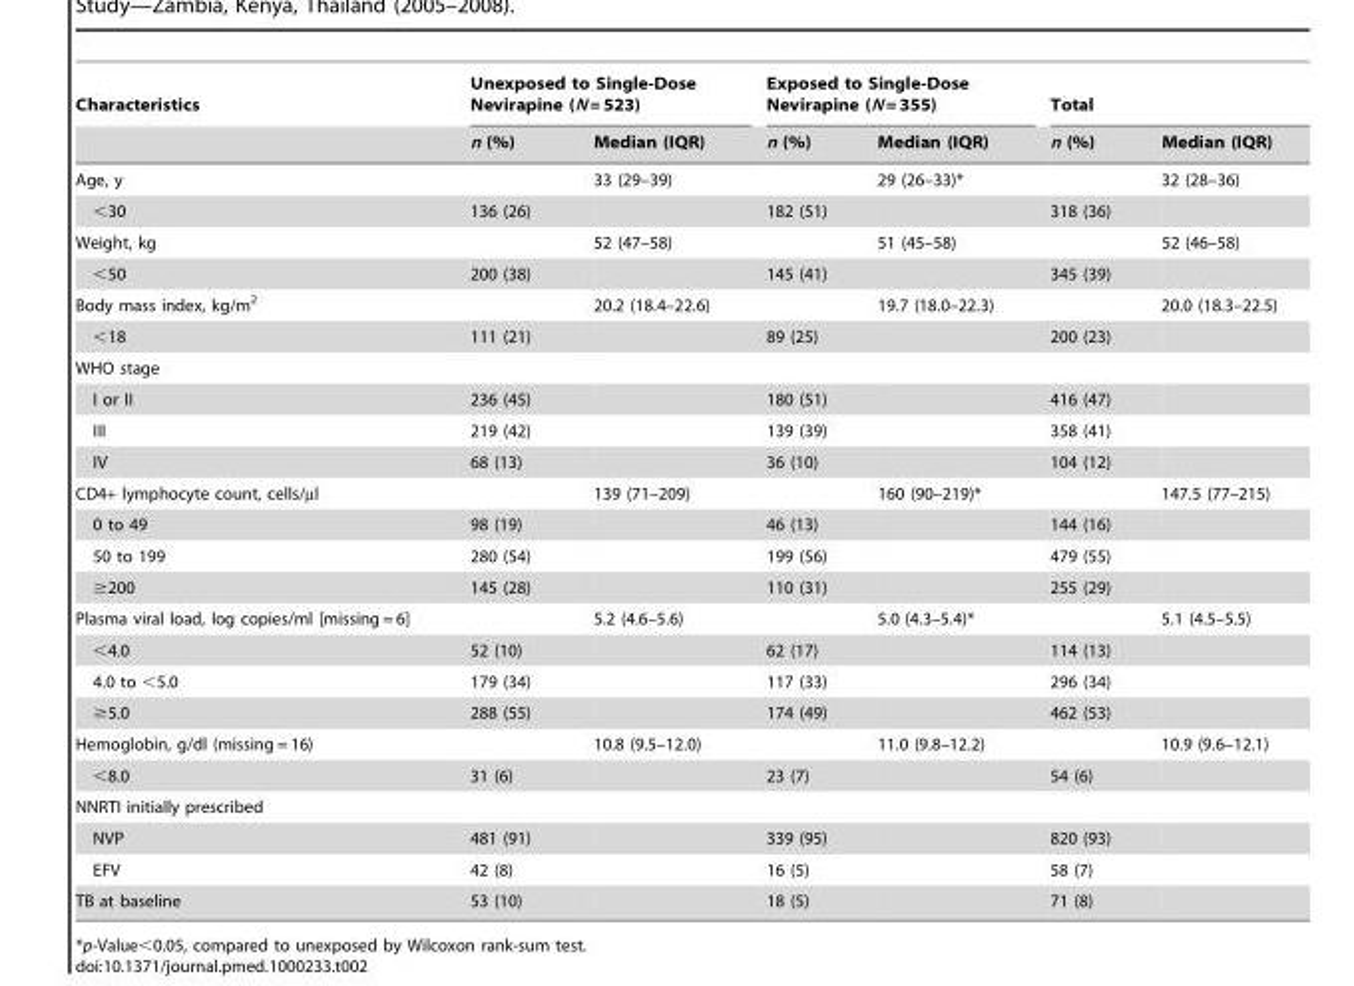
<table><thead><tr><td rowspan="2">Characteristics</td><td colspan="2">Unexposed to Single-Dose Nevirapine (N = 523)</td><td colspan="2">Exposed to Single-Dose Nevirapine (N = 355)</td><td colspan="2">Total</td></tr><tr><td>n (%)</td><td>Median (IQR)</td><td>n (%)</td><td>Median (IQR)</td><td>n (%)</td><td>Median (IQR)</td></tr></thead><tbody><tr><td>Age, y</td><td></td><td>33 (29–39)</td><td></td><td>29 (26–33)*</td><td></td><td>32 (28–36)</td></tr><tr><td>&lt;30</td><td>136 (26)</td><td></td><td>182 (51)</td><td></td><td>318 (36)</td><td></td></tr><tr><td>Weight, kg</td><td></td><td>52 (47–58)</td><td></td><td>51 (45–58)</td><td></td><td>52 (46–58)</td></tr><tr><td>&lt;50</td><td>200 (38)</td><td></td><td>145 (41)</td><td></td><td>345 (39)</td><td></td></tr><tr><td>Body mass index, kg/m<sup>2</sup></td><td></td><td>20.2 (18.4–22.6)</td><td></td><td>19.7 (18.0–22.3)</td><td></td><td>20.0 (18.3–22.5)</td></tr><tr><td>&lt;18</td><td>111 (21)</td><td></td><td>89 (25)</td><td></td><td>200 (23)</td><td></td></tr><tr><td colspan="7">WHO stage</td></tr><tr><td>I or II</td><td>236 (45)</td><td></td><td>180 (51)</td><td></td><td>416 (47)</td><td></td></tr><tr><td>III</td><td>219 (42)</td><td></td><td>139 (39)</td><td></td><td>358 (41)</td><td></td></tr><tr><td>IV</td><td>68 (13)</td><td></td><td>36 (10)</td><td></td><td>104 (12)</td><td></td></tr><tr><td>CD4+ lymphocyte count, cells/µl</td><td></td><td>139 (71–209)</td><td></td><td>160 (90–219)*</td><td></td><td>147.5 (77–215)</td></tr><tr><td>0 to 49</td><td>98 (19)</td><td></td><td>46 (13)</td><td></td><td>144 (16)</td><td></td></tr><tr><td>50 to 199</td><td>280 (54)</td><td></td><td>199 (56)</td><td></td><td>479 (55)</td><td></td></tr><tr><td>≥200</td><td>145 (28)</td><td></td><td>110 (31)</td><td></td><td>255 (29)</td><td></td></tr><tr><td>Plasma viral load, log copies/ml [missing = 6]</td><td></td><td>5.2 (4.6–5.6)</td><td></td><td>5.0 (4.3–5.4)*</td><td></td><td>5.1 (4.5–5.5)</td></tr><tr><td>&lt;4.0</td><td>52 (10)</td><td></td><td>62 (17)</td><td></td><td>114 (13)</td><td></td></tr><tr><td>4.0 to &lt;5.0</td><td>179 (34)</td><td></td><td>117 (33)</td><td></td><td>296 (34)</td><td></td></tr><tr><td>≥5.0</td><td>288 (55)</td><td></td><td>174 (49)</td><td></td><td>462 (53)</td><td></td></tr><tr><td>Hemoglobin, g/dl (missing = 16)</td><td></td><td>10.8 (9.5–12.0)</td><td></td><td>11.0 (9.8–12.2)</td><td></td><td>10.9 (9.6–12.1)</td></tr><tr><td>&lt;8.0</td><td>31 (6)</td><td></td><td>23 (7)</td><td></td><td>54 (6)</td><td></td></tr><tr><td colspan="7">NNRTI initially prescribed</td></tr><tr><td>NVP</td><td>481 (91)</td><td></td><td>339 (95)</td><td></td><td>820 (93)</td><td></td></tr><tr><td>EFV</td><td>42 (8)</td><td></td><td>16 (5)</td><td></td><td>58 (7)</td><td></td></tr><tr><td>TB at baseline</td><td>53 (10)</td><td></td><td>18 (5)</td><td></td><td>71 (8)</td><td></td></tr></tbody></table>